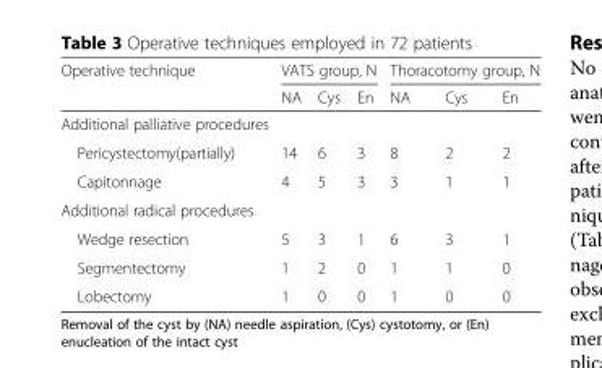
<table><thead><tr><td rowspan="2">Operative technique</td><td colspan="3">VATS group, N</td><td colspan="3">Thoracotomy group, N</td></tr><tr><td>NA</td><td>Cys</td><td>En</td><td>NA</td><td>Cys</td><td>En</td></tr></thead><tbody><tr><td colspan="7">Additional palliative procedures</td></tr><tr><td>Pericystectomy(partially)</td><td>14</td><td>6</td><td>3</td><td>8</td><td>2</td><td>2</td></tr><tr><td>Capitonnage</td><td>4</td><td>5</td><td>3</td><td>3</td><td>1</td><td>1</td></tr><tr><td colspan="7">Additional radical procedures</td></tr><tr><td>Wedge resection</td><td>5</td><td>3</td><td>1</td><td>6</td><td>3</td><td>1</td></tr><tr><td>Segmentectomy</td><td>1</td><td>2</td><td>0</td><td>1</td><td>1</td><td>0</td></tr><tr><td>Lobectomy</td><td>1</td><td>0</td><td>0</td><td>1</td><td>0</td><td>0</td></tr></tbody></table>